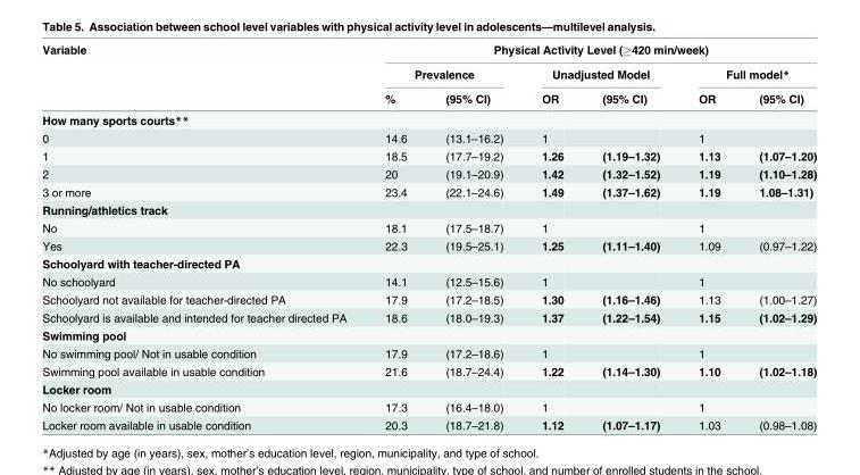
<table><thead><tr><td rowspan="3">Variable</td><td colspan="6">Physical Activity Level (≥420 min/week)</td></tr><tr><td colspan="2">Prevalence</td><td colspan="2">Unadjusted Model</td><td colspan="2">Full model*</td></tr><tr><td>%</td><td>(95% CI)</td><td>OR</td><td>(95% CI)</td><td>OR</td><td>(95% CI)</td></tr></thead><tbody><tr><td colspan="7">How many sports courts**</td></tr><tr><td>0</td><td>14.6</td><td>(13.1–16.2)</td><td>1</td><td></td><td>1</td><td></td></tr><tr><td>1</td><td>18.5</td><td>(17.7–19.2)</td><td>1.26</td><td>(1.19–1.32)</td><td>1.13</td><td>(1.07–1.20)</td></tr><tr><td>2</td><td>20</td><td>(19.1–20.9)</td><td>1.42</td><td>(1.32–1.52)</td><td>1.19</td><td>(1.10–1.28)</td></tr><tr><td>3 or more</td><td>23.4</td><td>(22.1–24.6)</td><td>1.49</td><td>(1.37–1.62)</td><td>1.19</td><td>1.08–1.31)</td></tr><tr><td colspan="7">Running/athletics track</td></tr><tr><td>No</td><td>18.1</td><td>(17.5–18.7)</td><td>1</td><td></td><td>1</td><td></td></tr><tr><td>Yes</td><td>22.3</td><td>(19.5–25.1)</td><td>1.25</td><td>(1.11–1.40)</td><td>1.09</td><td>(0.97–1.22)</td></tr><tr><td colspan="7">Schoolyard with teacher-directed PA</td></tr><tr><td>No schoolyard</td><td>14.1</td><td>(12.5–15.6)</td><td>1</td><td></td><td>1</td><td></td></tr><tr><td>Schoolyard not available for teacher-directed PA</td><td>17.9</td><td>(17.2–18.5)</td><td>1.30</td><td>(1.16–1.46)</td><td>1.13</td><td>(1.00–1.27)</td></tr><tr><td>Schoolyard is available and intended for teacher directed PA</td><td>18.6</td><td>(18.0–19.3)</td><td>1.37</td><td>(1.22–1.54)</td><td>1.15</td><td>(1.02–1.29)</td></tr><tr><td colspan="7">Swimming pool</td></tr><tr><td>No swimming pool/ Not in usable condition</td><td>17.9</td><td>(17.2–18.6)</td><td>1</td><td></td><td>1</td><td></td></tr><tr><td>Swimming pool available in usable condition</td><td>21.6</td><td>(18.7–24.4)</td><td>1.22</td><td>(1.14–1.30)</td><td>1.10</td><td>(1.02–1.18)</td></tr><tr><td colspan="7">Locker room</td></tr><tr><td>No locker room/ Not in usable condition</td><td>17.3</td><td>(16.4–18.0)</td><td>1</td><td></td><td>1</td><td></td></tr><tr><td>Locker room available in usable condition</td><td>20.3</td><td>(18.7–21.8)</td><td>1.12</td><td>(1.07–1.17)</td><td>1.03</td><td>(0.98–1.08)</td></tr></tbody></table>